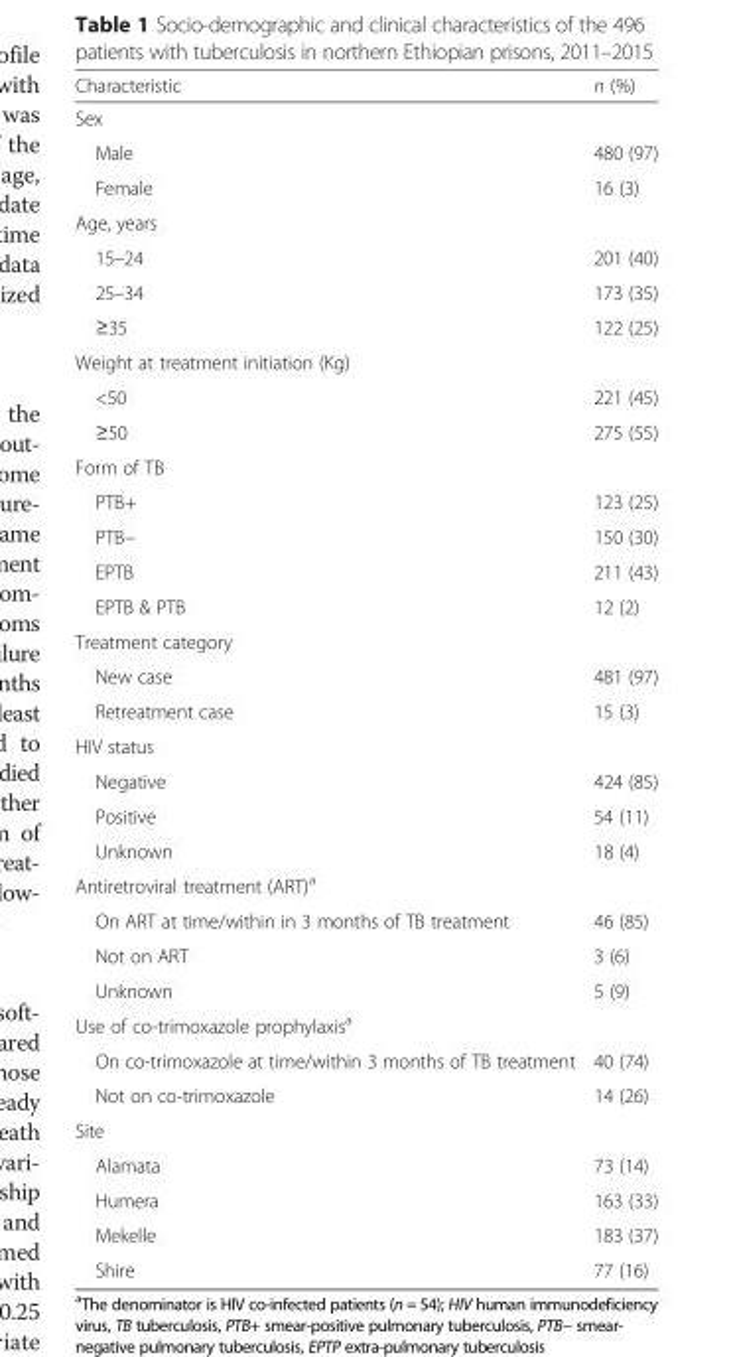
<table><thead><tr><td>Characteristic</td><td>n (%)</td></tr></thead><tbody><tr><td colspan="2">Sex</td></tr><tr><td>Male</td><td>480 (97)</td></tr><tr><td>Female</td><td>16 (3)</td></tr><tr><td colspan="2">Age, years</td></tr><tr><td>15–24</td><td>201 (40)</td></tr><tr><td>25–34</td><td>173 (35)</td></tr><tr><td>≥35</td><td>122 (25)</td></tr><tr><td colspan="2">Weight at treatment initiation (Kg)</td></tr><tr><td>&lt;50</td><td>221 (45)</td></tr><tr><td>≥50</td><td>275 (55)</td></tr><tr><td colspan="2">Form of TB</td></tr><tr><td>PTB+</td><td>123 (25)</td></tr><tr><td>PTB−</td><td>150 (30)</td></tr><tr><td>EPTB</td><td>211 (43)</td></tr><tr><td>EPTB &amp; PTB</td><td>12 (2)</td></tr><tr><td colspan="2">Treatment category</td></tr><tr><td>New case</td><td>481 (97)</td></tr><tr><td>Retreatment case</td><td>15 (3)</td></tr><tr><td colspan="2">HIV status</td></tr><tr><td>Negative</td><td>424 (85)</td></tr><tr><td>Positive</td><td>54 (11)</td></tr><tr><td>Unknown</td><td>18 (4)</td></tr><tr><td colspan="2">Antiretroviral treatment (ART)<sup>a</sup></td></tr><tr><td>On ART at time/within in 3 months of TB treatment</td><td>46 (85)</td></tr><tr><td>Not on ART</td><td>3 (6)</td></tr><tr><td>Unknown</td><td>5 (9)</td></tr><tr><td colspan="2">Use of co-trimoxazole prophylaxis<sup>a</sup></td></tr><tr><td>On co-trimoxazole at time/within 3 months of TB treatment</td><td>40 (74)</td></tr><tr><td>Not on co-trimoxazole</td><td>14 (26)</td></tr><tr><td colspan="2">Site</td></tr><tr><td>Alamata</td><td>73 (14)</td></tr><tr><td>Humera</td><td>163 (33)</td></tr><tr><td>Mekelle</td><td>183 (37)</td></tr><tr><td>Shire</td><td>77 (16)</td></tr></tbody></table>